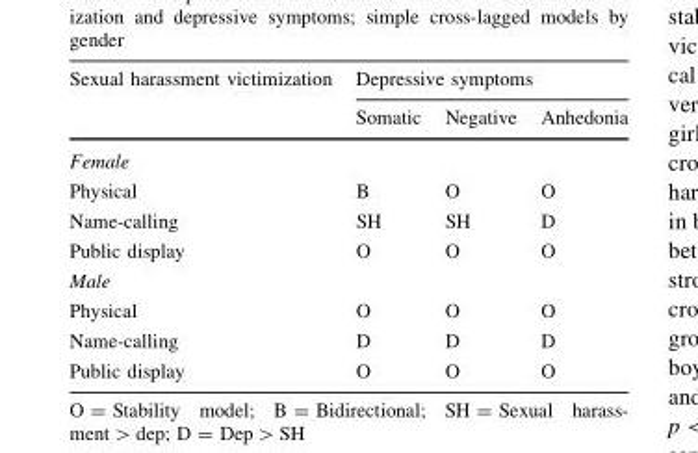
<table><thead><tr><td rowspan="2">Sexual harassment victimization</td><td colspan="3">Depressive symptoms</td></tr><tr><td>Somatic</td><td>Negative</td><td>Anhedonia</td></tr></thead><tbody><tr><td colspan="4">Female</td></tr><tr><td>Physical</td><td>B</td><td>O</td><td>O</td></tr><tr><td>Name-calling</td><td>SH</td><td>SH</td><td>D</td></tr><tr><td>Public display</td><td>O</td><td>O</td><td>O</td></tr><tr><td colspan="4">Male</td></tr><tr><td>Physical</td><td>O</td><td>O</td><td>O</td></tr><tr><td>Name-calling</td><td>D</td><td>D</td><td>D</td></tr><tr><td>Public display</td><td>O</td><td>O</td><td>O</td></tr></tbody></table>